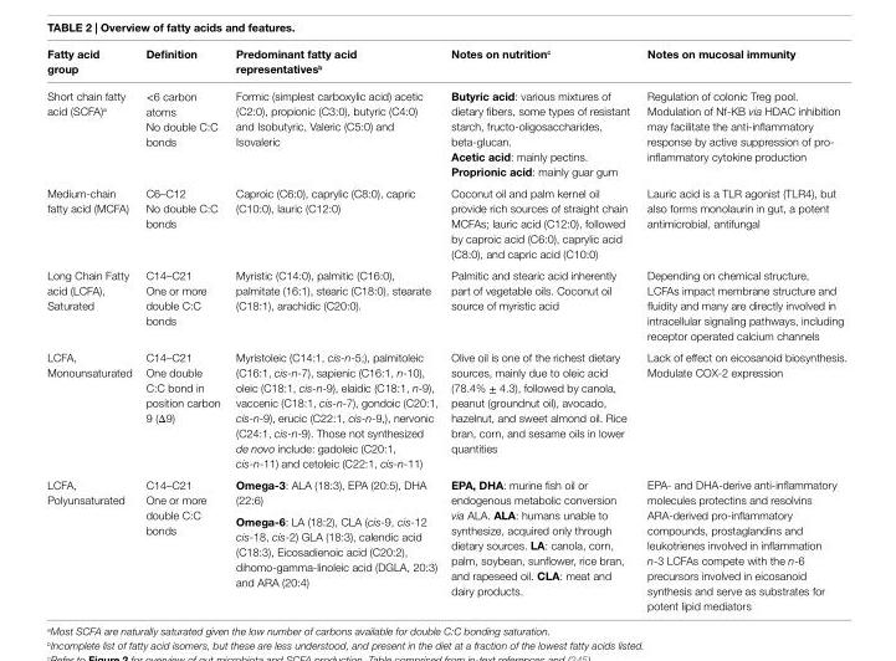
<table><thead><tr><td>Fatty acid group</td><td>Definition</td><td>Predominant fatty acid representatives<sup>b</sup></td><td>Notes on nutrition<sup>c</sup></td><td>Notes on mucosal immunity</td></tr></thead><tbody><tr><td>Short chain fatty acid (SCFA)<sup>a</sup></td><td>&lt;6 carbon atoms No double C:C bonds</td><td>Formic (simplest carboxylic acid) acetic (C2:0), propionic (C3:0), butyric (C4:0) and Isobutyric, Valeric (C5:0) and Isovaleric</td><td>Butyric acid: various mixtures of dietary fibers, some types of resistant starch, fructo-oligosaccharides, beta-glucan. Acetic acid: mainly pectins. Proprionic acid: mainly guar gum</td><td>Regulation of colonic Treg pool. Modulation of Nf-KB via HDAC inhibition may facilitate the anti-inflammatory response by active suppression of pro- inflammatory cytokine production</td></tr><tr><td>Medium-chain fatty acid (MCFA)</td><td>C6–C12 No double C:C bonds</td><td>Caproic (C6:0), caprylic (C8:0), capric (C10:0), lauric (C12:0)</td><td>Coconut oil and palm kernel oil provide rich sources of straight chain MCFAs; lauric acid (C12:0), followed by caproic acid (C6:0), caprylic acid (C8:0), and capric acid (C10:0)</td><td>Lauric acid is a TLR agonist (TLR4), but also forms monolaurin in gut, a potent antimicrobial, antifungal</td></tr><tr><td>Long Chain Fatty acid (LCFA), Saturated</td><td>C14–C21 One or more double C:C bonds</td><td>Myristic (C14:0), palmitic (C16:0), palmitate (16:1), stearic (C18:0), stearate (C18:1), arachidic (C20:0).</td><td>Palmitic and stearic acid inherently part of vegetable oils. Coconut oil source of myristic acid</td><td>Depending on chemical structure, LCFAs impact membrane structure and fluidity and many are directly involved in intracellular signaling pathways, including receptor operated calcium channels</td></tr><tr><td>LCFA, Monounsaturated</td><td>C14–C21 One double C:C bond in position carbon 9 (Δ9)</td><td>Myristoleic (C14:1, cis-n-5;), palmitoleic (C16:1, cis-n-7), sapienic (C16:1, n-10), oleic (C18:1, cis-n-9), elaidic (C18:1, n-9), vaccenic (C18:1, cis-n-7), gondoic (C20:1, cis-n-9), erucic (C22:1, cis-n-9,), nervonic (C24:1, cis-n-9). Those not synthesized de novo include: gadoleic (C20:1, cis-n-11) and cetoleic (C22:1, cis-n-11)</td><td>Olive oil is one of the richest dietary sources, mainly due to oleic acid (78.4% ± 4.3), followed by canola, peanut (groundnut oil), avocado, hazelnut, and sweet almond oil. Rice bran, corn, and sesame oils in lower quantities</td><td>Lack of effect on eicosanoid biosynthesis. Modulate COX-2 expression</td></tr><tr><td>LCFA, Polyunsaturated</td><td>C14–C21 One or more double C:C bonds</td><td>Omega-3: ALA (18:3), EPA (20:5), DHA (22:6) Omega-6: LA (18:2), CLA (cis-9, cis-12 cis-18, cis-2) GLA (18:3), calendic acid (C18:3), Eicosadienoic acid (C20:2), dihomo-gamma-linoleic acid (DGLA, 20:3) and ARA (20:4)</td><td>ePA, DHA: murine fish oil or endogenous metabolic conversion via ALA. ALA: humans unable to synthesize, acquired only through dietary sources. LA: canola, corn, palm, soybean, sunflower, rice bran, and rapeseed oil. CLA: meat and dairy products.</td><td>EPA- and DHA-derive anti-inflammatory molecules protectins and resolvins ARA-derived pro-inflammatory compounds, prostaglandins and leukotrienes involved in inflammation n-3 LCFAs compete with the n-6 precursors involved in eicosanoid synthesis and serve as substrates for potent lipid mediators</td></tr></tbody></table>